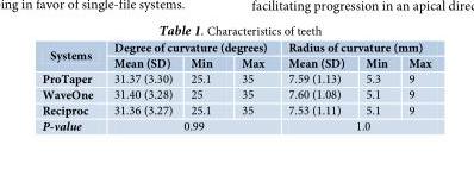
<table><thead><tr><td rowspan="2">Systems</td><td colspan="3">Degree of curvature (degrees)</td><td colspan="3">Radius of curvature (mm)</td></tr><tr><td>Mean (SD)</td><td>Min</td><td>Max</td><td>Mean (SD)</td><td>Min</td><td>Max</td></tr></thead><tbody><tr><td>ProTaper</td><td>31.37 (3.30)</td><td>25.1</td><td>35</td><td>7.59 (1.13)</td><td>5.3</td><td>9</td></tr><tr><td>WaveOne</td><td>31.40 (3.28)</td><td>25</td><td>35</td><td>7.60 (1.08)</td><td>5.1</td><td>9</td></tr><tr><td>Reciproc</td><td>31.36 (3.27)</td><td>25.1</td><td>35</td><td>7.53 (1.11)</td><td>5.1</td><td>9</td></tr><tr><td>P-value</td><td colspan="3">0.99</td><td colspan="3">1.0</td></tr></tbody></table>